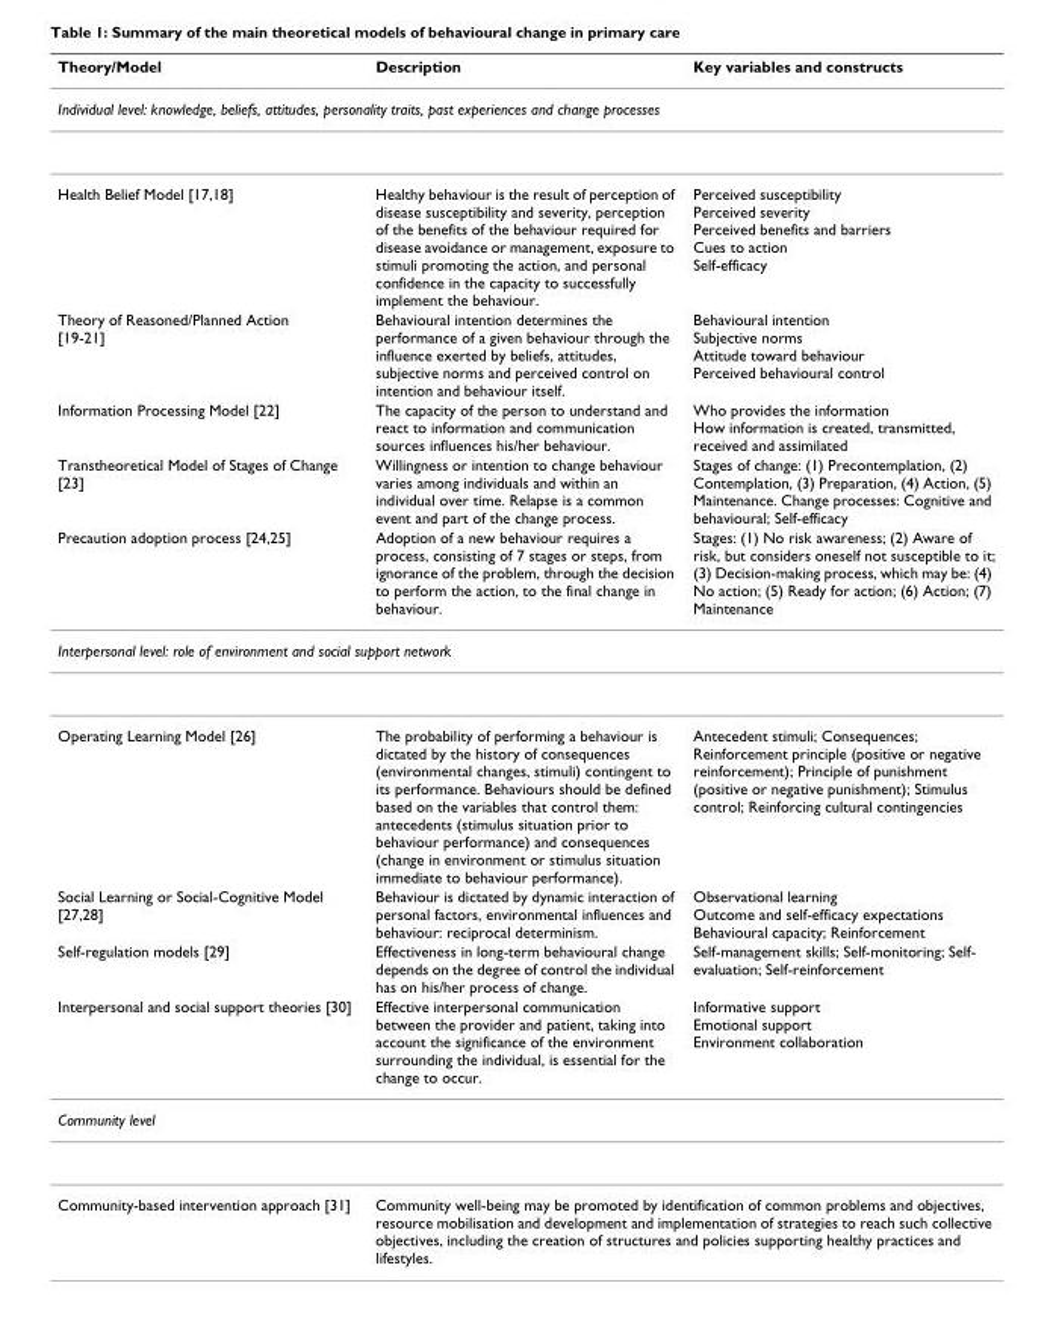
<table><thead><tr><td>Theory/Model</td><td>Description</td><td>Key variables and constructs</td></tr></thead><tbody><tr><td colspan="3">Individual level: knowledge, beliefs, attitudes, personality traits, past experiences and change processes</td></tr><tr><td>Health Belief Model [17,18]</td><td>Healthy behaviour is the result of perception of disease susceptibility and severity, perception of the benefits of the behaviour required for disease avoidance or management, exposure to stimuli promoting the action, and personal confidence in the capacity to successfully implement the behaviour.</td><td>Perceived susceptibility Perceived severity Perceived benefits and barriers Cues to action Self-efficacy</td></tr><tr><td>Theory of Reasoned/Planned Action [19-21]</td><td>Behavioural intention determines the performance of a given behaviour through the influence exerted by beliefs, attitudes, subjective norms and perceived control on intention and behaviour itself.</td><td>Behavioural intention Subjective norms Attitude toward behaviour Perceived behavioural control</td></tr><tr><td>Information Processing Model [22]</td><td>The capacity of the person to understand and react to information and communication sources influences his/her behaviour.</td><td>Who provides the information How information is created, transmitted, received and assimilated</td></tr><tr><td>Transtheoretical Model of Stages of Change [23]</td><td>Willingness or intention to change behaviour varies among individuals and within an individual over time. Relapse is a common event and part of the change process.</td><td>Stages of change: (1) Precontemplation, (2) Contemplation, (3) Preparation, (4) Action, (5) Maintenance. Change processes: Cognitive and behavioural; Self-efficacy</td></tr><tr><td>Precaution adoption process [24,25]</td><td>Adoption of a new behaviour requires a process, consisting of 7 stages or steps, from ignorance of the problem, through the decision to perform the action, to the final change in behaviour.</td><td>Stages: (1) No risk awareness; (2) Aware of risk, but considers oneself not susceptible to it; (3) Decision-making process, which may be: (4) No action; (5) Ready for action; (6) Action; (7) Maintenance</td></tr><tr><td colspan="3">Interpersonal level: role of environment and social support network</td></tr><tr><td>Operating Learning Model [26]</td><td>The probability of performing a behaviour is dictated by the history of consequences (environmental changes, stimuli) contingent to its performance. Behaviours should be defined based on the variables that control them: antecedents (stimulus situation prior to behaviour performance) and consequences (change in environment or stimulus situation immediate to behaviour performance).</td><td>Antecedent stimuli; Consequences; Reinforcement principle (positive or negative reinforcement); Principle of punishment (positive or negative punishment); Stimulus control; Reinforcing cultural contingencies</td></tr><tr><td>Social Learning or Social-Cognitive Model [27,28]</td><td>Behaviour is dictated by dynamic interaction of personal factors, environmental influences and behaviour: reciprocal determinism.</td><td>Observational learning Outcome and self-efficacy expectations Behavioural capacity; Reinforcement</td></tr><tr><td>Self-regulation models [29]</td><td>Effectiveness in long-term behavioural change depends on the degree of control the individual has on his/her process of change.</td><td>Self-management skills; Self-monitoring; Self- evaluation; Self-reinforcement</td></tr><tr><td>Interpersonal and social support theories [30]</td><td>Effective interpersonal communication between the provider and patient, taking into account the significance of the environment surrounding the individual, is essential for the change to occur.</td><td>Informative support Emotional support Environment collaboration</td></tr><tr><td colspan="3">Community level</td></tr><tr><td>Community-based intervention approach [31]</td><td colspan="2">Community well-being may be promoted by identification of common problems and objectives, resource mobilisation and development and implementation of strategies to reach such collective objectives, including the creation of structures and policies supporting healthy practices and lifestyles.</td></tr></tbody></table>